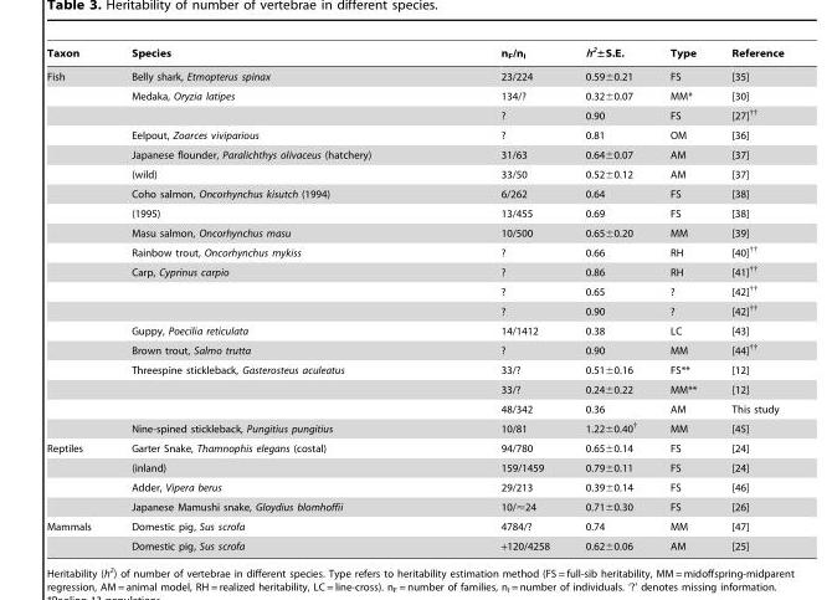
<table><thead><tr><td>Taxon</td><td>Species</td><td>n<sub>F</sub>/n<sub>I</sub></td><td>h<sup>2</sup>±S.E.</td><td>Type</td><td>Reference</td></tr></thead><tbody><tr><td rowspan="19">Fish</td><td>Belly shark, Etmopterus spinax</td><td>23/224</td><td>0.59±0.21</td><td>FS</td><td>[35]</td></tr><tr><td>Medaka, Oryzia latipes</td><td>134/?</td><td>0.32±0.07</td><td>MM*</td><td>[30]</td></tr><tr><td></td><td>?</td><td>0.90</td><td>FS</td><td>[27]††</td></tr><tr><td>Eelpout, Zoarces viviparious</td><td>?</td><td>0.81</td><td>OM</td><td>[36]</td></tr><tr><td>Japanese flounder, Paralichthys olivaceus (hatchery)</td><td>31/63</td><td>0.64±0.07</td><td>AM</td><td>[37]</td></tr><tr><td>(wild)</td><td>33/50</td><td>0.52±0.12</td><td>AM</td><td>[37]</td></tr><tr><td>Coho salmon, Oncorhynchus kisutch (1994)</td><td>6/262</td><td>0.64</td><td>FS</td><td>[38]</td></tr><tr><td>(1995)</td><td>13/455</td><td>0.69</td><td>FS</td><td>[38]</td></tr><tr><td>Masu salmon, Oncorhynchus masu</td><td>10/500</td><td>0.65±0.20</td><td>MM</td><td>[39]</td></tr><tr><td>Rainbow trout, Oncorhynchus mykiss</td><td>?</td><td>0.66</td><td>RH</td><td>[40]††</td></tr><tr><td>Carp, Cyprinus carpio</td><td>?</td><td>0.86</td><td>RH</td><td>[41]††</td></tr><tr><td></td><td>?</td><td>0.65</td><td>?</td><td>[42]††</td></tr><tr><td></td><td>?</td><td>0.90</td><td>?</td><td>[42]††</td></tr><tr><td>Guppy, Poecilia reticulata</td><td>14/1412</td><td>0.38</td><td>LC</td><td>[43]</td></tr><tr><td>Brown trout, Salmo trutta</td><td>?</td><td>0.90</td><td>MM</td><td>[44]††</td></tr><tr><td>Threespine stickleback, Gasterosteus aculeatus</td><td>33/?</td><td>0.51±0.16</td><td>FS**</td><td>[12]</td></tr><tr><td></td><td>33/?</td><td>0.24±0.22</td><td>MM**</td><td>[12]</td></tr><tr><td></td><td>48/342</td><td>0.36</td><td>AM</td><td>This study</td></tr><tr><td>Nine-spined stickleback, Pungitius pungitius</td><td>10/81</td><td>1.22±0.40†</td><td>MM</td><td>[45]</td></tr><tr><td rowspan="4">Reptiles</td><td>Garter Snake, Thamnophis elegans (costal)</td><td>94/780</td><td>0.65±0.14</td><td>FS</td><td>[24]</td></tr><tr><td>(inland)</td><td>159/1459</td><td>0.79±0.11</td><td>FS</td><td>[24]</td></tr><tr><td>Adder, Vipera berus</td><td>29/213</td><td>0.39±0.14</td><td>FS</td><td>[46]</td></tr><tr><td>Japanese Mamushi snake, Gloydius blomhoffii</td><td>10/&lt;24</td><td>0.71±0.30</td><td>FS</td><td>[26]</td></tr><tr><td rowspan="2">Mammals</td><td>Domestic pig, Sus scrofa</td><td>4784/?</td><td>0.74</td><td>MM</td><td>[47]</td></tr><tr><td>Domestic pig, Sus scrofa</td><td>+120/4258</td><td>0.62±0.06</td><td>AM</td><td>[25]</td></tr></tbody></table>